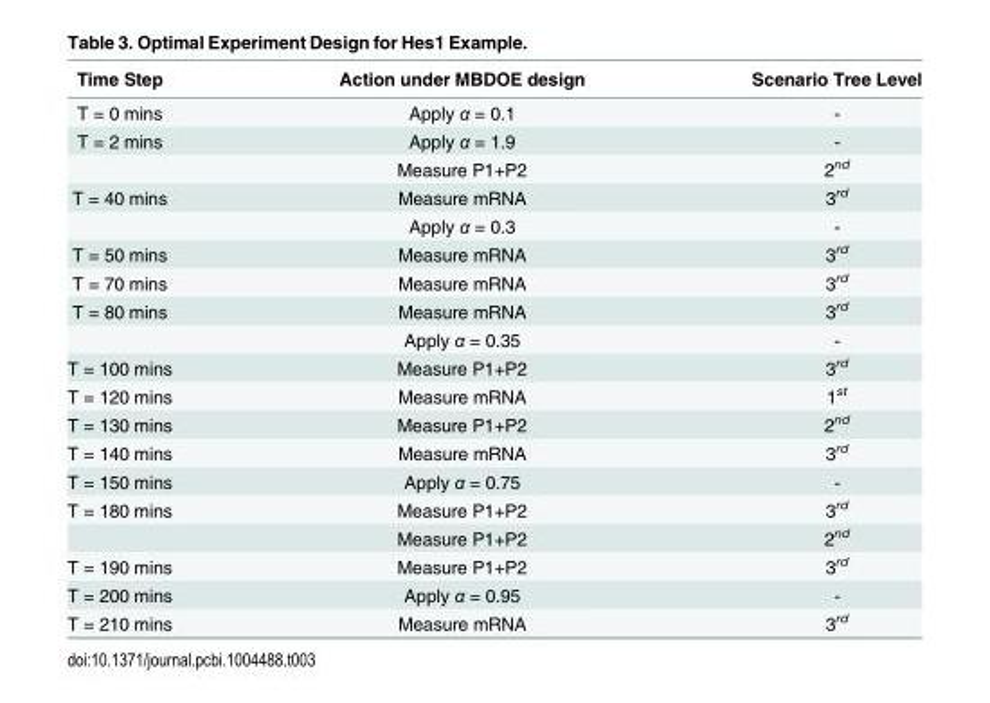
<table><thead><tr><td>Time Step</td><td>Action under MBDOE design</td><td>Scenario Tree Level</td></tr></thead><tbody><tr><td>T = 0 mins</td><td>Apply α = 0.1</td><td>-</td></tr><tr><td rowspan="2">T = 2 mins</td><td>Apply α = 1.9</td><td>-</td></tr><tr><td>Measure P1+P2</td><td>2<sup>nd</sup></td></tr><tr><td rowspan="2">T = 40 mins</td><td>Measure mRNA</td><td>3<sup>rd</sup></td></tr><tr><td>Apply α = 0.3</td><td>-</td></tr><tr><td>T = 50 mins</td><td>Measure mRNA</td><td>3<sup>rd</sup></td></tr><tr><td>T = 70 mins</td><td>Measure mRNA</td><td>3<sup>rd</sup></td></tr><tr><td rowspan="2">T = 80 mins</td><td>Measure mRNA</td><td>3<sup>rd</sup></td></tr><tr><td>Apply α = 0.35</td><td>-</td></tr><tr><td>T = 100 mins</td><td>Measure P1+P2</td><td>3<sup>rd</sup></td></tr><tr><td>T = 120 mins</td><td>Measure mRNA</td><td>1<sup>st</sup></td></tr><tr><td>T = 130 mins</td><td>Measure P1+P2</td><td>2<sup>nd</sup></td></tr><tr><td>T = 140 mins</td><td>Measure mRNA</td><td>3<sup>rd</sup></td></tr><tr><td>T = 150 mins</td><td>Apply α = 0.75</td><td>-</td></tr><tr><td rowspan="2">T = 180 mins</td><td>Measure P1+P2</td><td>3<sup>rd</sup></td></tr><tr><td>Measure P1+P2</td><td>2<sup>nd</sup></td></tr><tr><td>T = 190 mins</td><td>Measure P1+P2</td><td>3<sup>rd</sup></td></tr><tr><td>T = 200 mins</td><td>Apply α = 0.95</td><td>-</td></tr><tr><td>T = 210 mins</td><td>Measure mRNA</td><td>3<sup>rd</sup></td></tr></tbody></table>